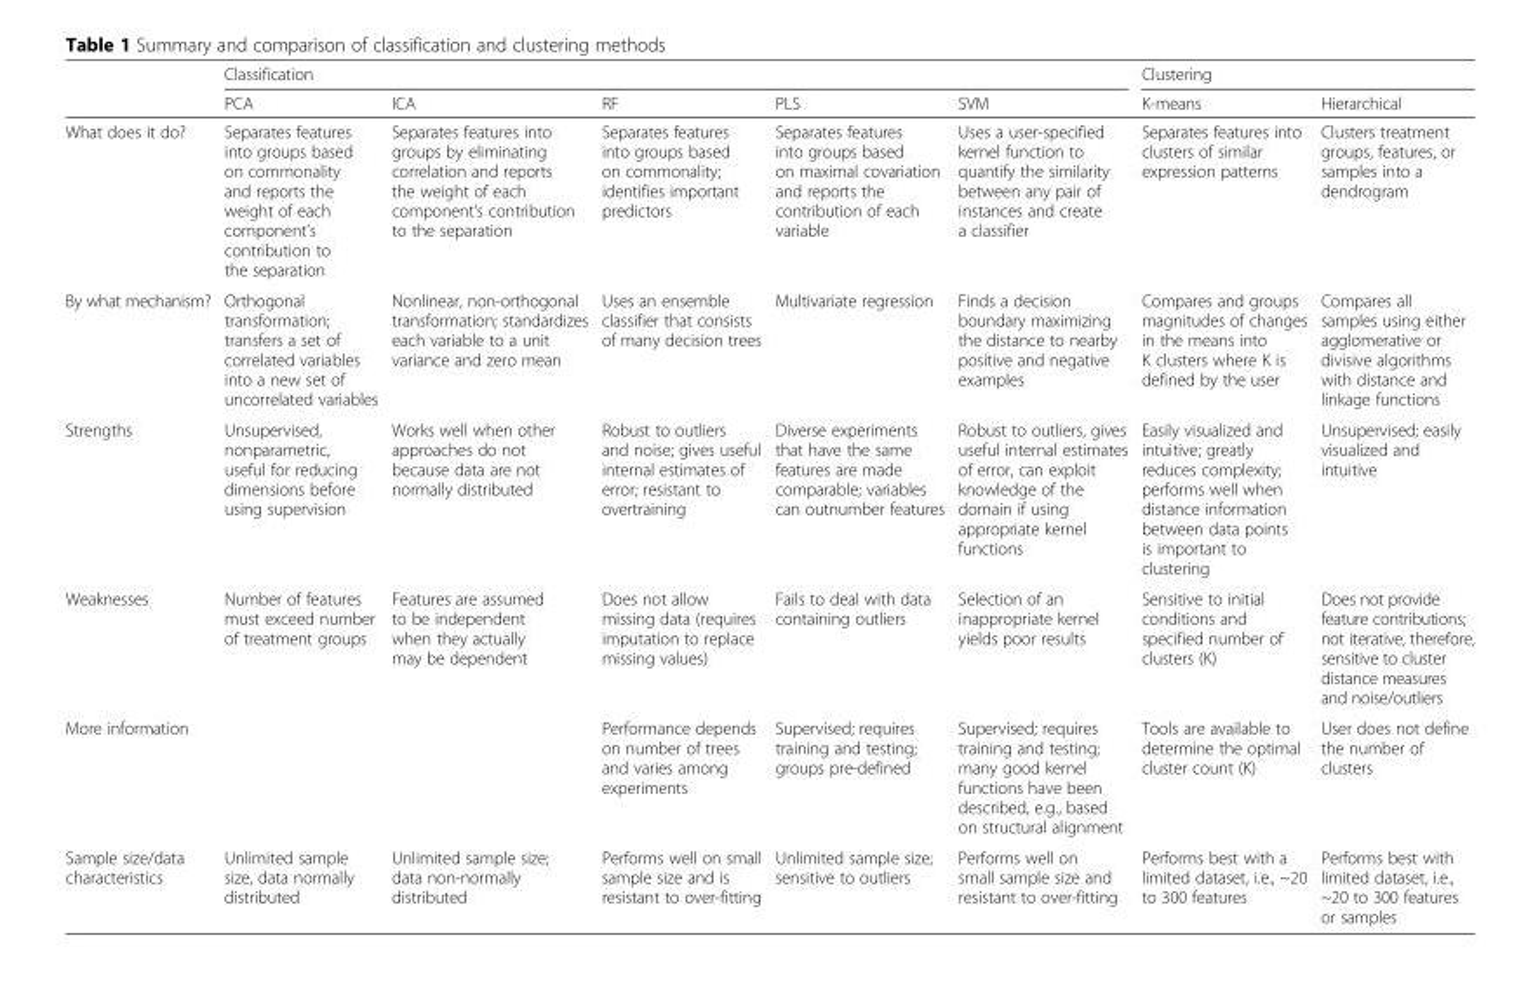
<table><thead><tr><td rowspan="2"></td><td colspan="5">Classification</td><td colspan="2">Clustering</td></tr><tr><td>PCA</td><td>ICA</td><td>RF</td><td>PLS</td><td>SVM</td><td>K-means</td><td>Hierarchical</td></tr></thead><tbody><tr><td>What does it do?</td><td>Separates features into groups based on commonality and reports the weight of each component’s contribution to the separation</td><td>Separates features into groups by eliminating correlation and reports the weight of each component’s contribution to the separation</td><td>Separates features into groups based on commonality; identifies important predictors</td><td>Separates features into groups based on maximal covariation and reports the contribution of each variable</td><td>Uses a user-specified kernel function to quantify the similarity between any pair of instances and create a classifier</td><td>Separates features into clusters of similar expression patterns</td><td>Clusters treatment groups, features, or samples into a dendrogram</td></tr><tr><td>By what mechanism?</td><td>Orthogonal transformation; transfers a set of correlated variables into a new set of uncorrelated variables</td><td>Nonlinear, non-orthogonal transformation; standardizes each variable to a unit variance and zero mean</td><td>Uses an ensemble classifier that consists of many decision trees</td><td>Multivariate regression</td><td>Finds a decision boundary maximizing the distance to nearby positive and negative examples</td><td>Compares and groups magnitudes of changes in the means into K clusters where K is defined by the user</td><td>Compares all samples using either agglomerative or divisive algorithms with distance and linkage functions</td></tr><tr><td>Strengths</td><td>Unsupervised, nonparametric, useful for reducing dimensions before using supervision</td><td>Works well when other approaches do not because data are not normally distributed</td><td>Robust to outliers and noise; gives useful internal estimates of error; resistant to overtraining</td><td>Diverse experiments that have the same features are made comparable; variables can outnumber features</td><td>Robust to outliers, gives useful internal estimates of error, can exploit knowledge of the domain if using appropriate kernel functions</td><td>Easily visualized and intuitive; greatly reduces complexity; performs well when distance information between data points is important to clustering</td><td>Unsupervised; easily visualized and intuitive</td></tr><tr><td>Weaknesses</td><td>Number of features must exceed number of treatment groups</td><td>Features are assumed to be independent when they actually may be dependent</td><td>Does not allow missing data (requires imputation to replace missing values)</td><td>Fails to deal with data containing outliers</td><td>Selection of an inappropriate kernel yields poor results</td><td>Sensitive to initial conditions and specified number of clusters (K)</td><td>Does not provide feature contributions; not iterative, therefore, sensitive to cluster distance measures and noise/outliers</td></tr><tr><td>More information</td><td></td><td></td><td>Performance depends on number of trees and varies among experiments</td><td>Supervised; requires training and testing; groups pre-defined</td><td>Supervised; requires training and testing; many good kernel functions have been described, e.g., based on structural alignment</td><td>Tools are available to determine the optimal cluster count (K)</td><td>User does not define the number of clusters</td></tr><tr><td>Sample size/data characteristics</td><td>Unlimited sample size, data normally distributed</td><td>Unlimited sample size; data non-normally distributed</td><td>Performs well on small sample size and is resistant to over-fitting</td><td>Unlimited sample size; sensitive to outliers</td><td>Performs well on small sample size and resistant to over-fitting</td><td>Performs best with a limited dataset, i.e., ~20 to 300 features</td><td>Performs best with limited dataset, i.e., ~20 to 300 features or samples</td></tr></tbody></table>